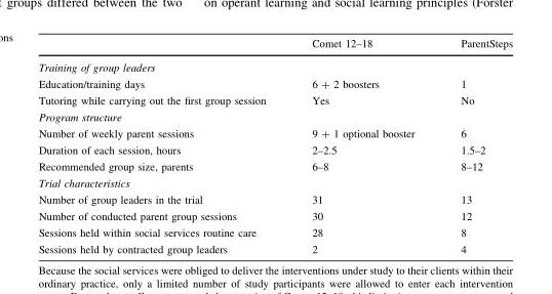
<table><thead><tr><td></td><td>Comet 12–18</td><td>ParentSteps</td></tr></thead><tbody><tr><td colspan="3">Training of group leaders</td></tr><tr><td>Education/training days</td><td>6 + 2 boosters</td><td>1</td></tr><tr><td>Tutoring while carrying out the first group session</td><td>Yes</td><td>No</td></tr><tr><td colspan="3">Program structure</td></tr><tr><td>Number of weekly parent sessions</td><td>9 + 1 optional booster</td><td>6</td></tr><tr><td>Duration of each session, hours</td><td>2–2.5</td><td>1.5–2</td></tr><tr><td>Recommended group size, parents</td><td>6–8</td><td>8–12</td></tr><tr><td colspan="3">Trial characteristics</td></tr><tr><td>Number of group leaders in the trial</td><td>31</td><td>13</td></tr><tr><td>Number of conducted parent group sessions</td><td>30</td><td>12</td></tr><tr><td>Sessions held within social services routine care</td><td>28</td><td>8</td></tr><tr><td>Sessions held by contracted group leaders</td><td>2</td><td>4</td></tr></tbody></table>